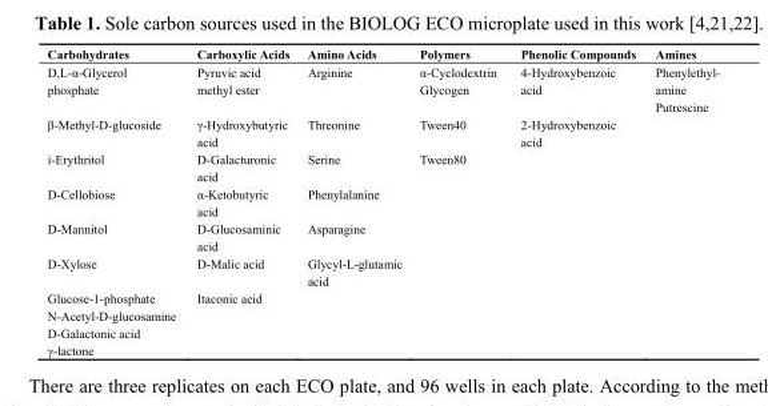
<table><thead><tr><td>Carbohydrates</td><td>Carboxylic Acids</td><td>Amino Acids</td><td>Polymers</td><td>Phenolic Compounds</td><td>Amines</td></tr></thead><tbody><tr><td>D,L-α-Glycerol phosphate</td><td>Pyruvic acid methyl ester</td><td>Arginine</td><td>α-Cyclodextrin Glycogen</td><td>4-Hydroxybenzoic acid</td><td>Phenylethyl- amine Putrescine</td></tr><tr><td>β-Methyl-D-glucoside</td><td>γ-Hydroxybutyric acid</td><td>Threonine</td><td>Tween40</td><td>2-Hydroxybenzoic acid</td><td></td></tr><tr><td>i-Erythritol</td><td>D-Galacturonic acid</td><td>Serine</td><td>Tween80</td><td></td><td></td></tr><tr><td>D-Cellobiose</td><td>α-Ketobutyric acid</td><td>Phenylalanine</td><td></td><td></td><td></td></tr><tr><td>D-Mannitol</td><td>D-Glucosaminic acid</td><td>Asparagine</td><td></td><td></td><td></td></tr><tr><td>D-Xylose</td><td>D-Malic acid</td><td>Glycyl-L-glutamic acid</td><td></td><td></td><td></td></tr><tr><td>Glucose-1-phosphate</td><td>Itaconic acid</td><td></td><td></td><td></td><td></td></tr><tr><td colspan="6">N-Acetyl-D-glucosamine</td></tr><tr><td>D-Galactonic acid γ-lactone</td><td></td><td></td><td></td><td></td><td></td></tr></tbody></table>